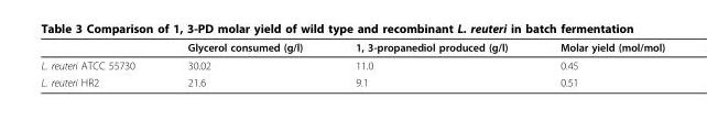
<table><thead><tr><td></td><td>Glycerol consumed (g/l)</td><td>1, 3-propanediol produced (g/l)</td><td>Molar yield (mol/mol)</td></tr></thead><tbody><tr><td>L. reuteri ATCC 55730</td><td>30.02</td><td>11.0</td><td>0.45</td></tr><tr><td>L. reuteri HR2</td><td>21.6</td><td>9.1</td><td>0.51</td></tr></tbody></table>